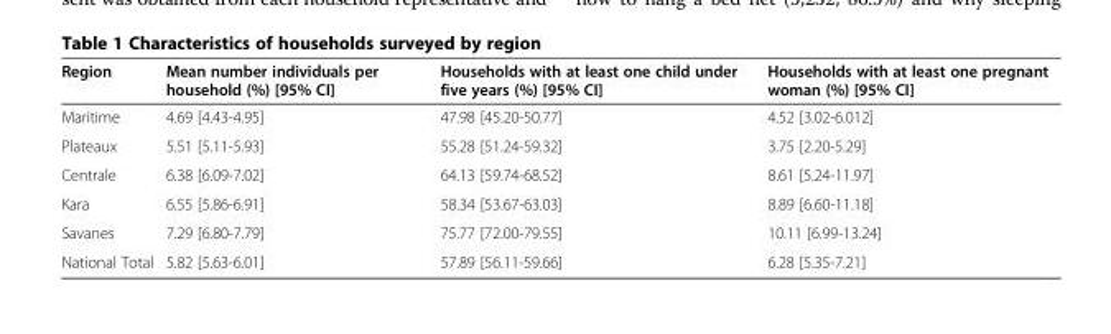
<table><thead><tr><td>Region</td><td>Mean number individuals per household (%) [95% CI]</td><td>Households with at least one child under five years (%) [95% CI]</td><td>Households with at least one pregnant woman (%) [95% CI]</td></tr></thead><tbody><tr><td>Maritime</td><td>4.69 [4.43-4.95]</td><td>47.98 [45.20-50.77]</td><td>4.52 [3.02-6.012]</td></tr><tr><td>Plateaux</td><td>5.51 [5.11-5.93]</td><td>55.28 [51.24-59.32]</td><td>3.75 [2.20-5.29]</td></tr><tr><td>Centrale</td><td>6.38 [6.09-7.02]</td><td>64.13 [59.74-68.52]</td><td>8.61 [5.24-11.97]</td></tr><tr><td>Kara</td><td>6.55 [5.86-6.91]</td><td>58.34 [53.67-63.03]</td><td>8.89 [6.60-11.18]</td></tr><tr><td>Savanes</td><td>7.29 [6.80-7.79]</td><td>75.77 [72.00-79.55]</td><td>10.11 [6.99-13.24]</td></tr><tr><td>National Total</td><td>5.82 [5.63-6.01]</td><td>57.89 [56.11-59.66]</td><td>6.28 [5.35-7.21]</td></tr></tbody></table>